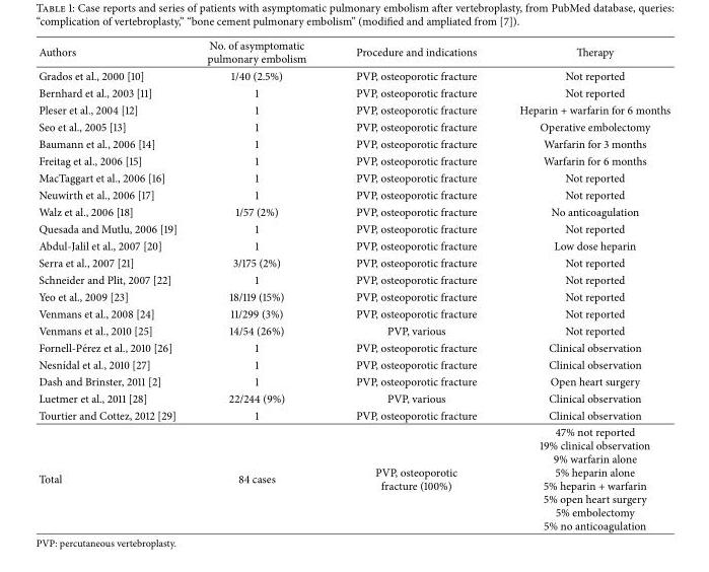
<table><thead><tr><td>Authors</td><td>No. of asymptomatic pulmonary embolism</td><td>Procedure and indications</td><td>Therapy</td></tr></thead><tbody><tr><td>Grados et al., 2000 [10]</td><td>1/40 (2.5%)</td><td>PVP, osteoporotic fracture</td><td>Not reported</td></tr><tr><td>Bernhard et al., 2003 [11]</td><td>1</td><td>PVP, osteoporotic fracture</td><td>Not reported</td></tr><tr><td>Pleser et al., 2004 [12]</td><td>1</td><td>PVP, osteoporotic fracture</td><td>Heparin + warfarin for 6 months</td></tr><tr><td>Seo et al., 2005 [13]</td><td>1</td><td>PVP, osteoporotic fracture</td><td>Operative embolectomy</td></tr><tr><td>Baumann et al., 2006 [14]</td><td>1</td><td>PVP, osteoporotic fracture</td><td>Warfarin for 3 months</td></tr><tr><td>Freitag et al., 2006 [15]</td><td>1</td><td>PVP, osteoporotic fracture</td><td>Warfarin for 6 months</td></tr><tr><td>MacTaggart et al., 2006 [16]</td><td>1</td><td>PVP, osteoporotic fracture</td><td>Not reported</td></tr><tr><td>Neuwirth et al., 2006 [17]</td><td>1</td><td>PVP, osteoporotic fracture</td><td>Not reported</td></tr><tr><td>Walz et al., 2006 [18]</td><td>1/57 (2%)</td><td>PVP, osteoporotic fracture</td><td>No anticoagulation</td></tr><tr><td>Quesada and Mutlu, 2006 [19]</td><td>1</td><td>PVP, osteoporotic fracture</td><td>Not reported</td></tr><tr><td>Abdul-Jalil et al., 2007 [20]</td><td>1</td><td>PVP, osteoporotic fracture</td><td>Low dose heparin</td></tr><tr><td>Serra et al., 2007 [21]</td><td>3/175 (2%)</td><td>PVP, osteoporotic fracture</td><td>Not reported</td></tr><tr><td>Schneider and Plit, 2007 [22]</td><td>1</td><td>PVP, osteoporotic fracture</td><td>Not reported</td></tr><tr><td>Yeo et al., 2009 [23]</td><td>18/119 (15%)</td><td>PVP, osteoporotic fracture</td><td>Not reported</td></tr><tr><td>Venmans et al., 2008 [24]</td><td>11/299 (3%)</td><td>PVP, osteoporotic fracture</td><td>Not reported</td></tr><tr><td>Venmans et al., 2010 [25]</td><td>14/54 (26%)</td><td>PVP, various</td><td>Not reported</td></tr><tr><td>Fornell-P´erez et al., 2010 [26]</td><td>1</td><td>PVP, osteoporotic fracture</td><td>Clinical observation</td></tr><tr><td>Nesn´ıdal et al., 2010 [27]</td><td>1</td><td>PVP, osteoporotic fracture</td><td>Clinical observation</td></tr><tr><td>Dash and Brinster, 2011 [2]</td><td>1</td><td>PVP, osteoporotic fracture</td><td>Open heart surgery</td></tr><tr><td>Luetmer et al., 2011 [28]</td><td>22/244 (9%)</td><td>PVP, various</td><td>Clinical observation</td></tr><tr><td>Tourtier and Cottez, 2012 [29]</td><td>1</td><td>PVP, osteoporotic fracture</td><td>Clinical observation</td></tr><tr><td>Total</td><td>84 cases</td><td>PVP, osteoporotic fracture (100%)</td><td>47% not reported 19% clinical observation 9% warfarin alone 5% heparin alone 5% heparin + warfarin 5% open heart surgery 5% embolectomy 5% no anticoagulation</td></tr></tbody></table>